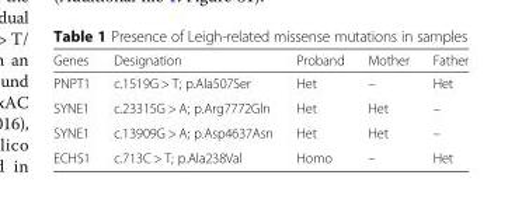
<table><thead><tr><td>Genes</td><td>Designation</td><td>Proband</td><td>Mother</td><td>Father</td></tr></thead><tbody><tr><td>PNPT1</td><td>c.1519G &gt; T; p.Ala507Ser</td><td>Het</td><td>–</td><td>Het</td></tr><tr><td>SYNE1</td><td>c.23315G &gt; A; p.Arg7772Gln</td><td>Het</td><td>Het</td><td>–</td></tr><tr><td>SYNE1</td><td>c.13909G &gt; A; p.Asp4637Asn</td><td>Het</td><td>Het</td><td>–</td></tr><tr><td>ECHS1</td><td>c.713C &gt; T; p.Ala238Val</td><td>Homo</td><td>–</td><td>Het</td></tr></tbody></table>